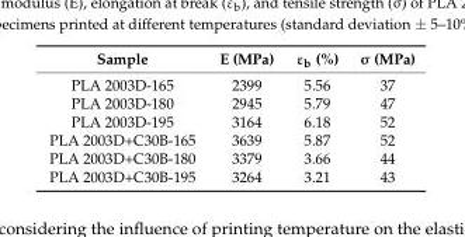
<table><thead><tr><td>Sample</td><td>E (MPa)</td><td>ε<sub>b</sub> (%)</td><td>σ (MPa)</td></tr></thead><tbody><tr><td>PLA 2003D-165</td><td>2399</td><td>5.56</td><td>37</td></tr><tr><td>PLA 2003D-180</td><td>2945</td><td>5.79</td><td>47</td></tr><tr><td>PLA 2003D-195</td><td>3164</td><td>6.18</td><td>52</td></tr><tr><td>PLA 2003D+C30B-165</td><td>3639</td><td>5.87</td><td>52</td></tr><tr><td>PLA 2003D+C30B-180</td><td>3379</td><td>3.66</td><td>44</td></tr><tr><td>PLA 2003D+C30B-195</td><td>3264</td><td>3.21</td><td>43</td></tr></tbody></table>